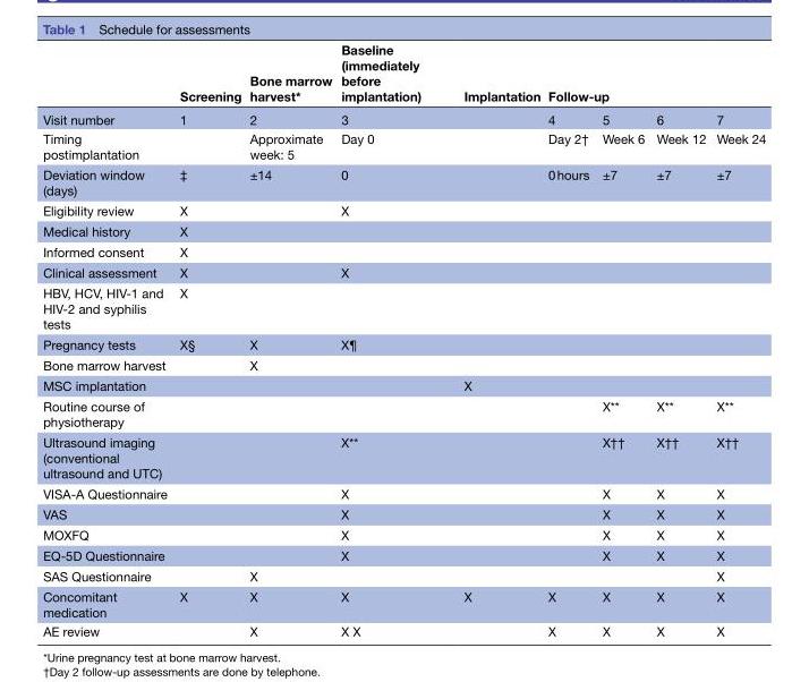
<table><thead><tr><td rowspan="2">Visit number</td><td rowspan="2">Screening 1</td><td rowspan="2">Bone marrow harvest* 2</td><td>Baseline (immediately before implantation)</td><td>Implantation</td><td colspan="4">Follow-up</td></tr><tr><td colspan="2">3</td><td>4</td><td>5</td><td>6</td><td>7</td></tr></thead><tbody><tr><td>Timing postimplantation</td><td></td><td>Approximate week: 5</td><td colspan="2">Day 0</td><td>Day 2†</td><td>Week 6</td><td>Week 12</td><td>Week 24</td></tr><tr><td>Deviation window (days)</td><td>‡</td><td>±14</td><td colspan="2">0</td><td>0 hours</td><td>±7</td><td>±7</td><td>±7</td></tr><tr><td>Eligibility review</td><td>X</td><td></td><td>X</td><td></td><td></td><td></td><td></td><td></td></tr><tr><td>Medical history</td><td>X</td><td></td><td></td><td></td><td></td><td></td><td></td><td></td></tr><tr><td>Informed consent</td><td>X</td><td></td><td></td><td></td><td></td><td></td><td></td><td></td></tr><tr><td>Clinical assessment</td><td>X</td><td></td><td>X</td><td></td><td></td><td></td><td></td><td></td></tr><tr><td>HBV, HCV, HIV-1 and HIV-2 and syphilis tests</td><td>X</td><td></td><td></td><td></td><td></td><td></td><td></td><td></td></tr><tr><td>Pregnancy tests</td><td>X§</td><td>X</td><td>X¶</td><td></td><td></td><td></td><td></td><td></td></tr><tr><td>Bone marrow harvest</td><td></td><td>X</td><td></td><td></td><td></td><td></td><td></td><td></td></tr><tr><td>MSC implantation</td><td></td><td></td><td></td><td>X</td><td></td><td></td><td></td><td></td></tr><tr><td>Routine course of physiotherapy</td><td></td><td></td><td></td><td></td><td></td><td>X**</td><td>X**</td><td>X**</td></tr><tr><td>Ultrasound imaging (conventional ultrasound and UTC)</td><td></td><td></td><td>X**</td><td></td><td></td><td>X††</td><td>X††</td><td>X††</td></tr><tr><td>VISA-A Questionnaire</td><td></td><td></td><td>X</td><td></td><td></td><td>X</td><td>X</td><td>X</td></tr><tr><td>VAS</td><td></td><td></td><td>X</td><td></td><td></td><td>X</td><td>X</td><td>X</td></tr><tr><td>MOXFQ</td><td></td><td></td><td>X</td><td></td><td></td><td>X</td><td>X</td><td>X</td></tr><tr><td>EQ-5D Questionnaire</td><td></td><td></td><td>X</td><td></td><td></td><td>X</td><td>X</td><td>X</td></tr><tr><td>SAS Questionnaire</td><td></td><td>X</td><td></td><td></td><td></td><td></td><td></td><td>X</td></tr><tr><td>Concomitant medication</td><td>X</td><td>X</td><td>X</td><td>X</td><td>X</td><td>X</td><td>X</td><td>X</td></tr><tr><td>AE review</td><td></td><td>X</td><td colspan="2">X X</td><td>X</td><td>X</td><td>X</td><td>X</td></tr></tbody></table>